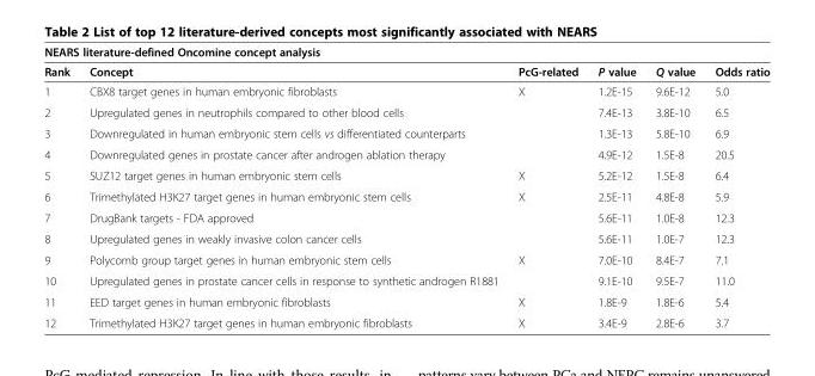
<table><thead><tr><td colspan="6">NEARS literature-defined Oncomine concept analysis</td></tr><tr><td>Rank</td><td>Concept</td><td>PcG-related</td><td>P value</td><td>Q value</td><td>Odds ratio</td></tr></thead><tbody><tr><td>1</td><td>CBX8 target genes in human embryonic fibroblasts</td><td>X</td><td>1.2E-15</td><td>9.6E-12</td><td>5.0</td></tr><tr><td>2</td><td>Upregulated genes in neutrophils compared to other blood cells</td><td></td><td>7.4E-13</td><td>3.8E-10</td><td>6.5</td></tr><tr><td>3</td><td>Downregulated in human embryonic stem cells vs differentiated counterparts</td><td></td><td>1.3E-13</td><td>5.8E-10</td><td>6.9</td></tr><tr><td>4</td><td>Downregulated genes in prostate cancer after androgen ablation therapy</td><td></td><td>4.9E-12</td><td>1.5E-8</td><td>20.5</td></tr><tr><td>5</td><td>SUZ12 target genes in human embryonic stem cells</td><td>X</td><td>5.2E-12</td><td>1.5E-8</td><td>6.4</td></tr><tr><td>6</td><td>Trimethylated H3K27 target genes in human embryonic stem cells</td><td>X</td><td>2.5E-11</td><td>4.8E-8</td><td>5.9</td></tr><tr><td>7</td><td>DrugBank targets - FDA approved</td><td></td><td>5.6E-11</td><td>1.0E-8</td><td>12.3</td></tr><tr><td>8</td><td>Upregulated genes in weakly invasive colon cancer cells</td><td></td><td>5.6E-11</td><td>1.0E-7</td><td>12.3</td></tr><tr><td>9</td><td>Polycomb group target genes in human embryonic stem cells</td><td>X</td><td>7.0E-10</td><td>8.4E-7</td><td>7.1</td></tr><tr><td>10</td><td>Upregulated genes in prostate cancer cells in response to synthetic androgen R1881</td><td></td><td>9.1E-10</td><td>9.5E-7</td><td>11.0</td></tr><tr><td>11</td><td>EED target genes in human embryonic fibroblasts</td><td>X</td><td>1.8E-9</td><td>1.8E-6</td><td>5.4</td></tr><tr><td>12</td><td>Trimethylated H3K27 target genes in human embryonic fibroblasts</td><td>X</td><td>3.4E-9</td><td>2.8E-6</td><td>3.7</td></tr></tbody></table>